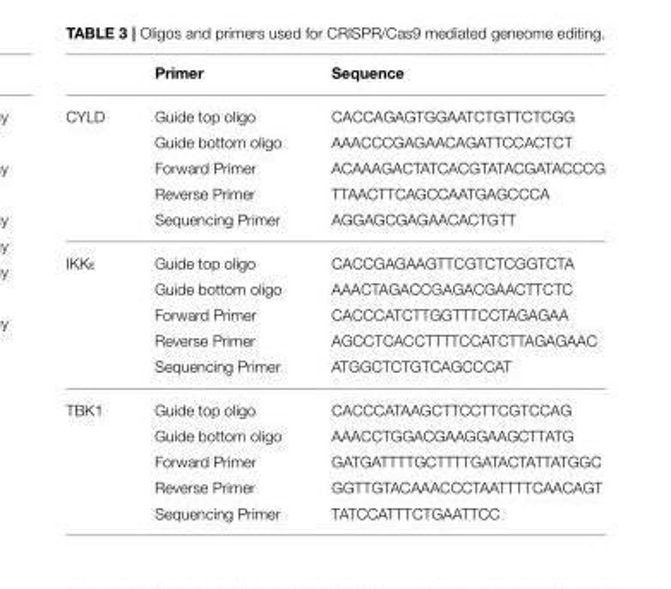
<table><thead><tr><td></td><td>Primer</td><td>Sequence</td></tr></thead><tbody><tr><td rowspan="5">CYLD</td><td>Guide top oligo</td><td>CACCAGAGTGGAATCTGTTCTCGG</td></tr><tr><td>Guide bottom oligo</td><td>AAACCCGAGAACAGATTCCACTCT</td></tr><tr><td>Forward Primer</td><td>ACAAAGACTATCACGTATACGATACCCG</td></tr><tr><td>Reverse Primer</td><td>TTAACTTCAGCCAATGAGCCCA</td></tr><tr><td>Sequencing Primer</td><td>AGGAGCGAGAACACTGTT</td></tr><tr><td rowspan="5">IKKε</td><td>Guide top oligo</td><td>CACCGAGAAGTTCGTCTCGGTCTA</td></tr><tr><td>Guide bottom oligo</td><td>AAACTAGACCGAGACGAACTTCTC</td></tr><tr><td>Forward Primer</td><td>CACCCATCTTGGTTTCCTAGAGAA</td></tr><tr><td>Reverse Primer</td><td>AGCCTCACCTTTTCCATCTTAGAGAAC</td></tr><tr><td>Sequencing Primer</td><td>ATGGCTCTGTCAGCCCAT</td></tr><tr><td rowspan="5">TBK1</td><td>Guide top oligo</td><td>CACCCATAAGCTTCCTTCGTCCAG</td></tr><tr><td>Guide bottom oligo</td><td>AAACCTGGACGAAGGAAGCTTATG</td></tr><tr><td>Forward Primer</td><td>GATGATTTTGCTTTTGATACTATTATGGC</td></tr><tr><td>Reverse Primer</td><td>GGTTGTACAAACCCTAATTTTCAACAGT</td></tr><tr><td>Sequencing Primer</td><td>TATCCATTTCTGAATTCC</td></tr></tbody></table>